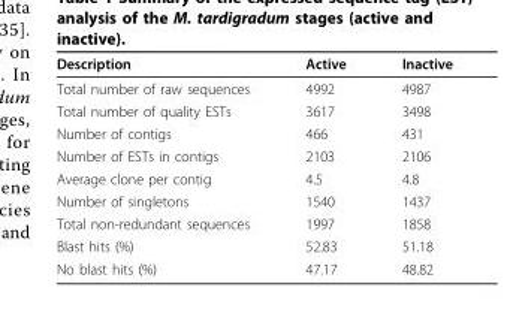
<table><thead><tr><td>Description</td><td>Active</td><td>Inactive</td></tr></thead><tbody><tr><td>Total number of raw sequences</td><td>4992</td><td>4987</td></tr><tr><td>Total number of quality ESTs</td><td>3617</td><td>3498</td></tr><tr><td>Number of contigs</td><td>466</td><td>431</td></tr><tr><td>Number of ESTs in contigs</td><td>2103</td><td>2106</td></tr><tr><td>Average clone per contig</td><td>4.5</td><td>4.8</td></tr><tr><td>Number of singletons</td><td>1540</td><td>1437</td></tr><tr><td>Total non-redundant sequences</td><td>1997</td><td>1858</td></tr><tr><td>Blast hits (%)</td><td>52.83</td><td>51.18</td></tr><tr><td>No blast hits (%)</td><td>47.17</td><td>48.82</td></tr></tbody></table>